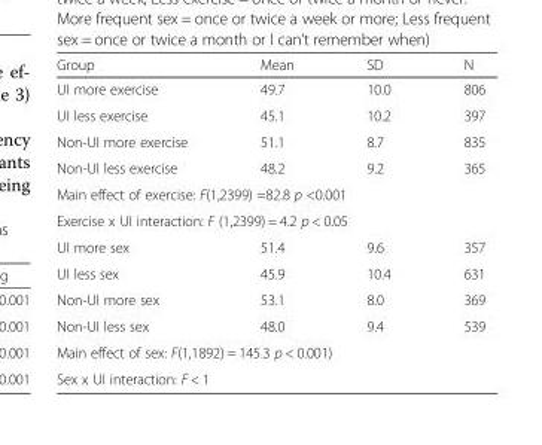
<table><thead><tr><td>Group</td><td>Mean</td><td>SD</td><td>N</td></tr></thead><tbody><tr><td>UI more exercise</td><td>49.7</td><td>10.0</td><td>806</td></tr><tr><td>UI less exercise</td><td>45.1</td><td>10.2</td><td>397</td></tr><tr><td>Non-UI more exercise</td><td>51.1</td><td>8.7</td><td>835</td></tr><tr><td>Non-UI less exercise</td><td>48.2</td><td>9.2</td><td>365</td></tr><tr><td colspan="4">Main effect of exercise: F(1,2399) =82.8 p &lt;0.001</td></tr><tr><td colspan="4">Exercise x UI interaction: F (1,2399) = 4.2 p &lt; 0.05</td></tr><tr><td>UI more sex</td><td>51.4</td><td>9.6</td><td>357</td></tr><tr><td>UI less sex</td><td>45.9</td><td>10.4</td><td>631</td></tr><tr><td>Non-UI more sex</td><td>53.1</td><td>8.0</td><td>369</td></tr><tr><td>Non-UI less sex</td><td>48.0</td><td>9.4</td><td>539</td></tr><tr><td colspan="4">Main effect of sex: F(1,1892) = 145.3 p &lt; 0.001)</td></tr><tr><td colspan="4">Sex x UI interaction: F &lt; 1</td></tr></tbody></table>